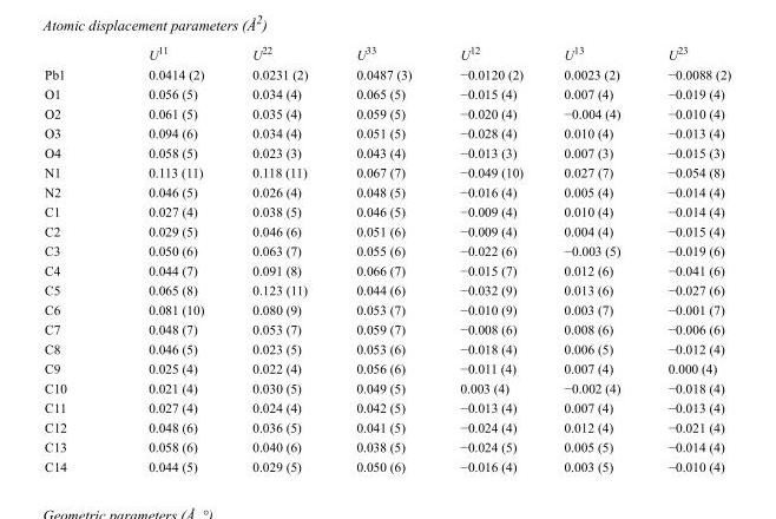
<table><thead><tr><td></td><td>U<sup>11</sup></td><td>U<sup>22</sup></td><td>U<sup>33</sup></td><td>U<sup>12</sup></td><td>U<sup>13</sup></td><td>U<sup>23</sup></td></tr></thead><tbody><tr><td>Pb1</td><td>0.0414 (2)</td><td>0.0231 (2)</td><td>0.0487 (3)</td><td>−0.0120 (2)</td><td>0.0023 (2)</td><td>−0.0088 (2)</td></tr><tr><td>O1</td><td>0.056 (5)</td><td>0.034 (4)</td><td>0.065 (5)</td><td>−0.015 (4)</td><td>0.007 (4)</td><td>−0.019 (4)</td></tr><tr><td>O2</td><td>0.061 (5)</td><td>0.035 (4)</td><td>0.059 (5)</td><td>−0.020 (4)</td><td>−0.004 (4)</td><td>−0.010 (4)</td></tr><tr><td>O3</td><td>0.094 (6)</td><td>0.034 (4)</td><td>0.051 (5)</td><td>−0.028 (4)</td><td>0.010 (4)</td><td>−0.013 (4)</td></tr><tr><td>O4</td><td>0.058 (5)</td><td>0.023 (3)</td><td>0.043 (4)</td><td>−0.013 (3)</td><td>0.007 (3)</td><td>−0.015 (3)</td></tr><tr><td>N1</td><td>0.113 (11)</td><td>0.118 (11)</td><td>0.067 (7)</td><td>−0.049 (10)</td><td>0.027 (7)</td><td>−0.054 (8)</td></tr><tr><td>N2</td><td>0.046 (5)</td><td>0.026 (4)</td><td>0.048 (5)</td><td>−0.016 (4)</td><td>0.005 (4)</td><td>−0.014 (4)</td></tr><tr><td>C1</td><td>0.027 (4)</td><td>0.038 (5)</td><td>0.046 (5)</td><td>−0.009 (4)</td><td>0.010 (4)</td><td>−0.014 (4)</td></tr><tr><td>C2</td><td>0.029 (5)</td><td>0.046 (6)</td><td>0.051 (6)</td><td>−0.009 (4)</td><td>0.004 (4)</td><td>−0.015 (4)</td></tr><tr><td>C3</td><td>0.050 (6)</td><td>0.063 (7)</td><td>0.055 (6)</td><td>−0.022 (6)</td><td>−0.003 (5)</td><td>−0.019 (6)</td></tr><tr><td>C4</td><td>0.044 (7)</td><td>0.091 (8)</td><td>0.066 (7)</td><td>−0.015 (7)</td><td>0.012 (6)</td><td>−0.041 (6)</td></tr><tr><td>C5</td><td>0.065 (8)</td><td>0.123 (11)</td><td>0.044 (6)</td><td>−0.032 (9)</td><td>0.013 (6)</td><td>−0.027 (6)</td></tr><tr><td>C6</td><td>0.081 (10)</td><td>0.080 (9)</td><td>0.053 (7)</td><td>−0.010 (9)</td><td>0.003 (7)</td><td>−0.001 (7)</td></tr><tr><td>C7</td><td>0.048 (7)</td><td>0.053 (7)</td><td>0.059 (7)</td><td>−0.008 (6)</td><td>0.008 (6)</td><td>−0.006 (6)</td></tr><tr><td>C8</td><td>0.046 (5)</td><td>0.023 (5)</td><td>0.053 (6)</td><td>−0.018 (4)</td><td>0.006 (5)</td><td>−0.012 (4)</td></tr><tr><td>C9</td><td>0.025 (4)</td><td>0.022 (4)</td><td>0.056 (6)</td><td>−0.011 (4)</td><td>0.007 (4)</td><td>0.000 (4)</td></tr><tr><td>C10</td><td>0.021 (4)</td><td>0.030 (5)</td><td>0.049 (5)</td><td>0.003 (4)</td><td>−0.002 (4)</td><td>−0.018 (4)</td></tr><tr><td>C11</td><td>0.027 (4)</td><td>0.024 (4)</td><td>0.042 (5)</td><td>−0.013 (4)</td><td>0.007 (4)</td><td>−0.013 (4)</td></tr><tr><td>C12</td><td>0.048 (6)</td><td>0.036 (5)</td><td>0.041 (5)</td><td>−0.024 (4)</td><td>0.012 (4)</td><td>−0.021 (4)</td></tr><tr><td>C13</td><td>0.058 (6)</td><td>0.040 (6)</td><td>0.038 (5)</td><td>−0.024 (5)</td><td>0.005 (5)</td><td>−0.014 (4)</td></tr><tr><td>C14</td><td>0.044 (5)</td><td>0.029 (5)</td><td>0.050 (6)</td><td>−0.016 (4)</td><td>0.003 (5)</td><td>−0.010 (4)</td></tr></tbody></table>